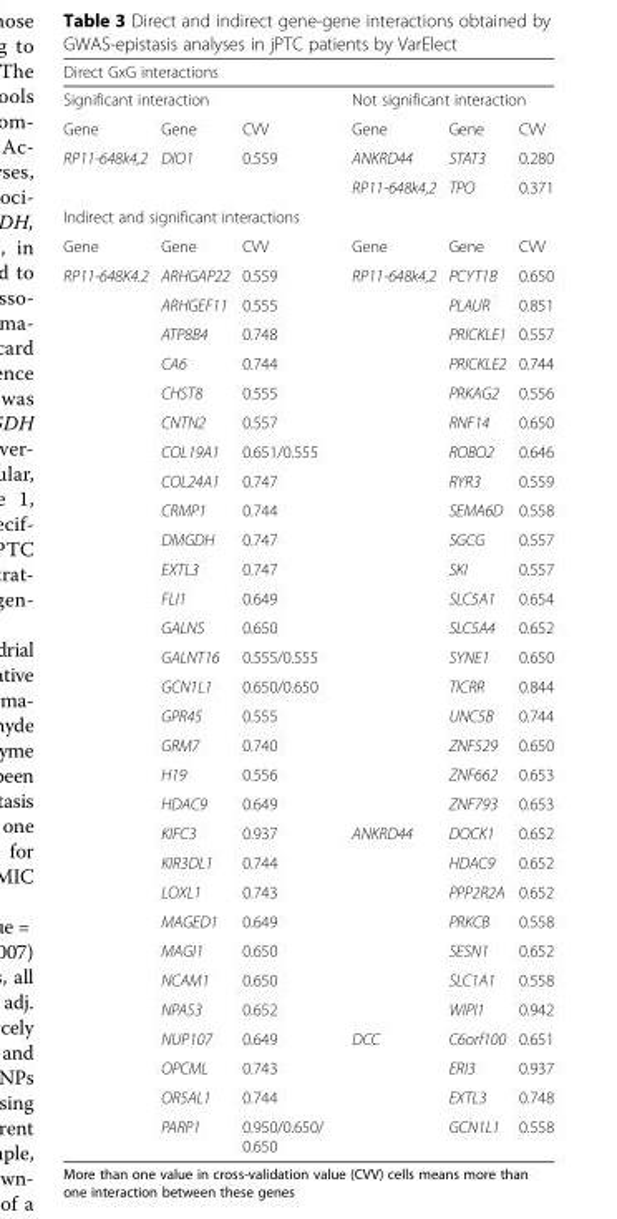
<table><thead><tr><td colspan="6">Direct GxG interactions</td></tr><tr><td colspan="3">Significant interaction</td><td colspan="3">Not significant interaction</td></tr><tr><td>Gene</td><td>Gene</td><td>CVV</td><td>Gene</td><td>Gene</td><td>CVV</td></tr></thead><tbody><tr><td rowspan="2">RP11-648k4,2</td><td rowspan="2">DIO1</td><td rowspan="2">0.559</td><td>ANKRD44</td><td>STAT3</td><td>0.280</td></tr><tr><td>RP11-648k4,2</td><td>TPO</td><td>0.371</td></tr><tr><td colspan="6">Indirect and significant interactions</td></tr><tr><td>Gene</td><td>Gene</td><td>CVV</td><td>Gene</td><td>Gene</td><td>CVV</td></tr><tr><td rowspan="30">RP11-648K4.2</td><td>ARHGAP22</td><td>0.559</td><td rowspan="19">RP11-648k4,2</td><td>PCYT1B</td><td>0.650</td></tr><tr><td>ARHGEF11</td><td>0.555</td><td>PLAUR</td><td>0.851</td></tr><tr><td>ATP8B4</td><td>0.748</td><td>PRICKLE1</td><td>0.557</td></tr><tr><td>CA6</td><td>0.744</td><td>PRICKLE2</td><td>0.744</td></tr><tr><td>CHST8</td><td>0.555</td><td>PRKAG2</td><td>0.556</td></tr><tr><td>CNTN2</td><td>0.557</td><td>RNF14</td><td>0.650</td></tr><tr><td>COL19A1</td><td>0.651/0.555</td><td>ROBO2</td><td>0.646</td></tr><tr><td>COL24A1</td><td>0.747</td><td>RYR3</td><td>0.559</td></tr><tr><td>CRMP1</td><td>0.744</td><td>SEMA6D</td><td>0.558</td></tr><tr><td>DMGDH</td><td>0.747</td><td>SGCG</td><td>0.557</td></tr><tr><td>EXTL3</td><td>0.747</td><td>SKI</td><td>0.557</td></tr><tr><td>FLI1</td><td>0.649</td><td>SLC5A1</td><td>0.654</td></tr><tr><td>GALNS</td><td>0.650</td><td>SLC5A4</td><td>0.652</td></tr><tr><td>GALNT16</td><td>0.555/0.555</td><td>SYNE1</td><td>0.650</td></tr><tr><td>GCN1L1</td><td>0.650/0.650</td><td>TICRR</td><td>0.844</td></tr><tr><td>GPR45</td><td>0.555</td><td>UNC5B</td><td>0.744</td></tr><tr><td>GRM7</td><td>0.740</td><td>ZNF529</td><td>0.650</td></tr><tr><td>H19</td><td>0.556</td><td>ZNF662</td><td>0.653</td></tr><tr><td>HDAC9</td><td>0.649</td><td>ZNF793</td><td>0.653</td></tr><tr><td>KIFC3</td><td>0.937</td><td rowspan="7">ANKRD44</td><td>DOCK1</td><td>0.652</td></tr><tr><td>KIR3DL1</td><td>0.744</td><td>HDAC9</td><td>0.652</td></tr><tr><td>LOXL1</td><td>0.743</td><td>PPP2R2A</td><td>0.652</td></tr><tr><td>MAGED1</td><td>0.649</td><td>PRKCB</td><td>0.558</td></tr><tr><td>MAGI1</td><td>0.650</td><td>SESN1</td><td>0.652</td></tr><tr><td>NCAM1</td><td>0.650</td><td>SLC1A1</td><td>0.558</td></tr><tr><td>NPAS3</td><td>0.652</td><td>WIPI1</td><td>0.942</td></tr><tr><td>NUP107</td><td>0.649</td><td rowspan="4">DCC</td><td>C6orf100</td><td>0.651</td></tr><tr><td>OPCML</td><td>0.743</td><td>ERI3</td><td>0.937</td></tr><tr><td>OR5AL1</td><td>0.744</td><td>EXTL3</td><td>0.748</td></tr><tr><td>PARP1</td><td>0.950/0.650/ 0.650</td><td>GCN1L1</td><td>0.558</td></tr></tbody></table>